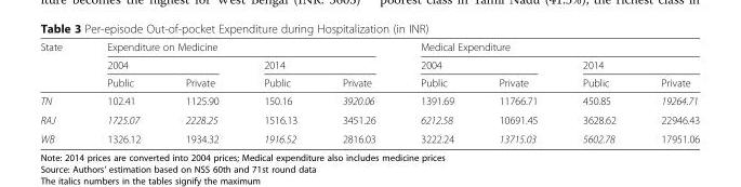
<table><thead><tr><td rowspan="3">State</td><td colspan="4">Expenditure on Medicine</td><td colspan="4">Medical Expenditure</td></tr><tr><td colspan="2">2004</td><td colspan="2">2014</td><td colspan="2">2004</td><td colspan="2">2014</td></tr><tr><td>Public</td><td>Private</td><td>Public</td><td>Private</td><td>Public</td><td>Private</td><td>Public</td><td>Private</td></tr></thead><tbody><tr><td>TN</td><td>102.41</td><td>1125.90</td><td>150.16</td><td>3920.06</td><td>1391.69</td><td>11766.71</td><td>450.85</td><td>19264.71</td></tr><tr><td>RAJ</td><td>1725.07</td><td>2228.25</td><td>1516.13</td><td>3451.26</td><td>6212.58</td><td>10691.45</td><td>3628.62</td><td>22946.43</td></tr><tr><td>WB</td><td>1326.12</td><td>1934.32</td><td>1916.52</td><td>2816.03</td><td>3222.24</td><td>13715.03</td><td>5602.78</td><td>17951.06</td></tr></tbody></table>